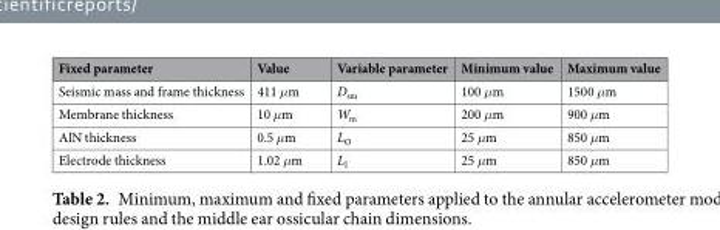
<table><thead><tr><td>Fixed parameter</td><td>Value</td><td>Variable parameter</td><td>Minimum value</td><td>Maximum value</td></tr></thead><tbody><tr><td>Seismic mass and frame thickness</td><td>411 μm</td><td>D<sub>sm</sub></td><td>100 μm</td><td>1500 μm</td></tr><tr><td>Membrane thickness</td><td>10 μm</td><td>W<sub>m</sub></td><td>200 μm</td><td>900 μm</td></tr><tr><td>AlN thickness</td><td>0.5 μm</td><td>L<sub>O</sub></td><td>25 μm</td><td>850 μm</td></tr><tr><td>Electrode thickness</td><td>1.02 μm</td><td>L<sub>I</sub></td><td>25 μm</td><td>850 μm</td></tr></tbody></table>